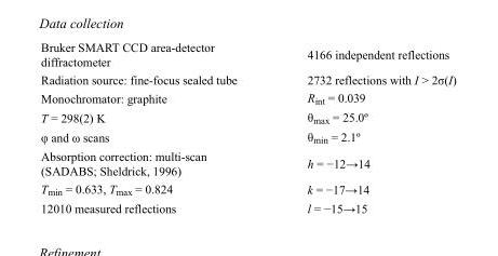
<table><tbody><tr><td>Bruker SMART CCD area-detector diffractometer</td><td>4166 independent reflections</td></tr><tr><td>Radiation source: fine-focus sealed tube</td><td>2732 reflections with I &gt; 2σ(I)</td></tr><tr><td>Monochromator: graphite</td><td>R<sub>int</sub> = 0.039</td></tr><tr><td>T = 298(2) K</td><td>θ<sub>max</sub> = 25.0º</td></tr><tr><td>φ and ω scans</td><td>θ<sub>min</sub> = 2.1º</td></tr><tr><td>Absorption correction: multi-scan (SADABS; Sheldrick, 1996)</td><td>h = −12→14</td></tr><tr><td>T<sub>min</sub> = 0.633, T<sub>max</sub> = 0.824</td><td>k = −17→14</td></tr><tr><td>12010 measured reflections</td><td>l = −15→15</td></tr></tbody></table>